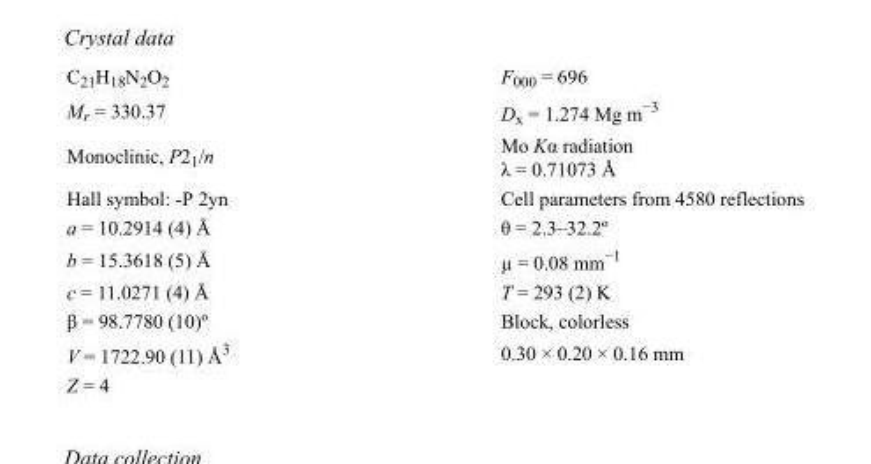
<table><tbody><tr><td>C<sub>21</sub>H<sub>18</sub>N<sub>2</sub>O<sub>2</sub></td><td>F000 = 696</td></tr><tr><td>M<sub>r</sub> = 330.37</td><td>D<sub>x</sub> = 1.274 Mg m<sup>−3</sup></td></tr><tr><td>Monoclinic, P2<sub>1</sub>/n</td><td>Mo Kα radiation λ = 0.71073 Å</td></tr><tr><td>Hall symbol: -P 2yn</td><td>Cell parameters from 4580 reflections</td></tr><tr><td>a = 10.2914 (4) Å</td><td>θ = 2.3–32.2º</td></tr><tr><td>b = 15.3618 (5) Å</td><td>µ = 0.08 mm<sup>−1</sup></td></tr><tr><td>c = 11.0271 (4) Å</td><td>T = 293 (2) K</td></tr><tr><td>β = 98.7780 (10)º</td><td>Block, colorless</td></tr><tr><td>V = 1722.90 (11) Å<sup>3</sup></td><td>0.30 × 0.20 × 0.16 mm</td></tr><tr><td>Z = 4</td><td></td></tr></tbody></table>